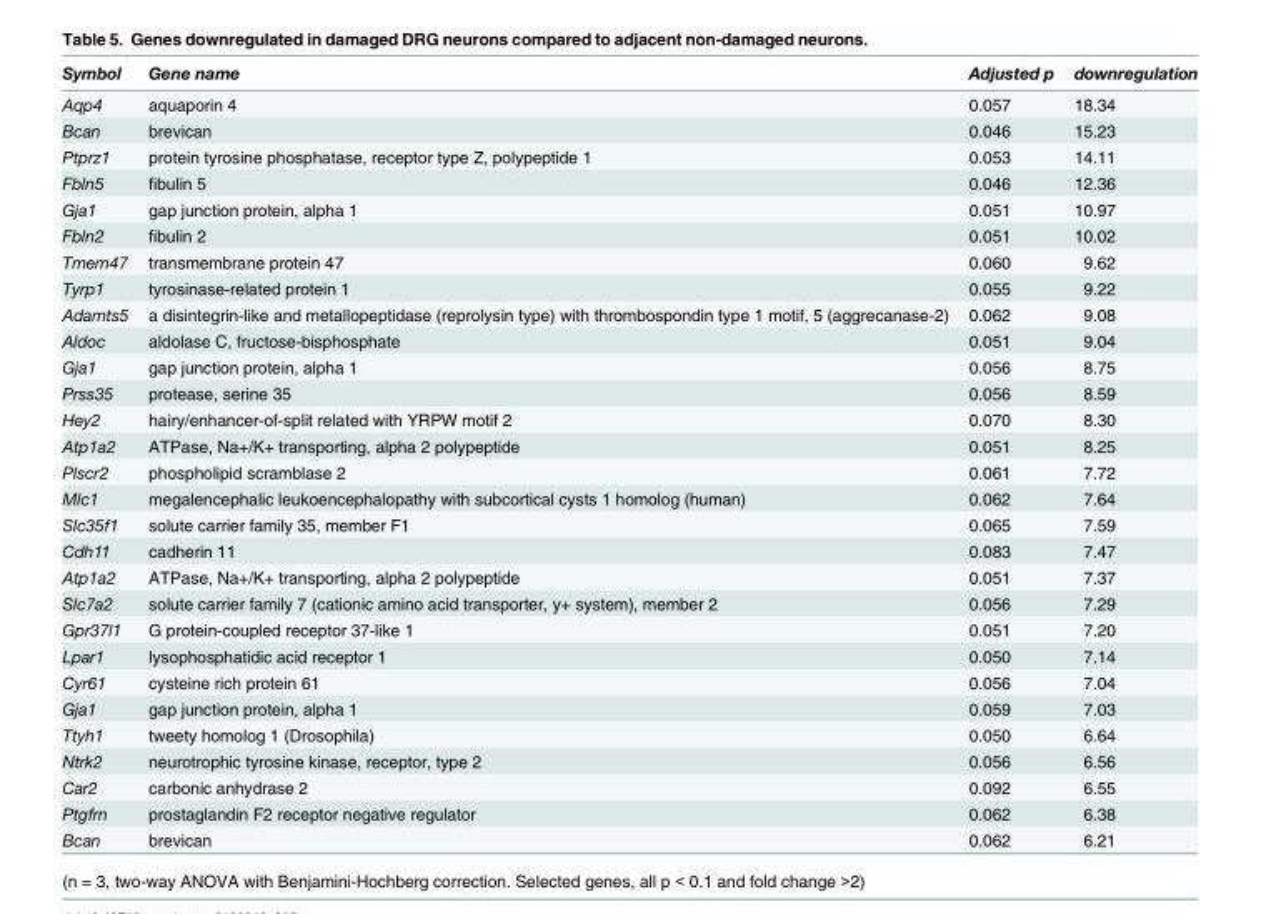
<table><thead><tr><td>Symbol</td><td>Gene name</td><td>Adjusted p</td><td>downregulation</td></tr></thead><tbody><tr><td>Aqp4</td><td>aquaporin 4</td><td>0.057</td><td>18.34</td></tr><tr><td>Bcan</td><td>brevican</td><td>0.046</td><td>15.23</td></tr><tr><td>Ptprz1</td><td>protein tyrosine phosphatase, receptor type Z, polypeptide 1</td><td>0.053</td><td>14.11</td></tr><tr><td>Fbln5</td><td>fibulin 5</td><td>0.046</td><td>12.36</td></tr><tr><td>Gja1</td><td>gap junction protein, alpha 1</td><td>0.051</td><td>10.97</td></tr><tr><td>Fbln2</td><td>fibulin 2</td><td>0.051</td><td>10.02</td></tr><tr><td>Tmem47</td><td>transmembrane protein 47</td><td>0.060</td><td>9.62</td></tr><tr><td>Tyrp1</td><td>tyrosinase-related protein 1</td><td>0.055</td><td>9.22</td></tr><tr><td>Adamts5</td><td>a disintegrin-like and metallopeptidase (reprolysin type) with thrombospondin type 1 motif, 5 (aggrecanase-2)</td><td>0.062</td><td>9.08</td></tr><tr><td>Aldoc</td><td>aldolase C, fructose-bisphosphate</td><td>0.051</td><td>9.04</td></tr><tr><td>Gja1</td><td>gap junction protein, alpha 1</td><td>0.056</td><td>8.75</td></tr><tr><td>Prss35</td><td>protease, serine 35</td><td>0.056</td><td>8.59</td></tr><tr><td>Hey2</td><td>hairy/enhancer-of-split related with YRPW motif 2</td><td>0.070</td><td>8.30</td></tr><tr><td>Atp1a2</td><td>ATPase, Na+/K+ transporting, alpha 2 polypeptide</td><td>0.051</td><td>8.25</td></tr><tr><td>Plscr2</td><td>phospholipid scramblase 2</td><td>0.061</td><td>7.72</td></tr><tr><td>Mlc1</td><td>megalencephalic leukoencephalopathy with subcortical cysts 1 homolog (human)</td><td>0.062</td><td>7.64</td></tr><tr><td>Slc35f1</td><td>solute carrier family 35, member F1</td><td>0.065</td><td>7.59</td></tr><tr><td>Cdh11</td><td>cadherin 11</td><td>0.083</td><td>7.47</td></tr><tr><td>Atp1a2</td><td>ATPase, Na+/K+ transporting, alpha 2 polypeptide</td><td>0.051</td><td>7.37</td></tr><tr><td>Slc7a2</td><td>solute carrier family 7 (cationic amino acid transporter, y+ system), member 2</td><td>0.056</td><td>7.29</td></tr><tr><td>Gpr37l1</td><td>G protein-coupled receptor 37-like 1</td><td>0.051</td><td>7.20</td></tr><tr><td>Lpar1</td><td>lysophosphatidic acid receptor 1</td><td>0.050</td><td>7.14</td></tr><tr><td>Cyr61</td><td>cysteine rich protein 61</td><td>0.056</td><td>7.04</td></tr><tr><td>Gja1</td><td>gap junction protein, alpha 1</td><td>0.059</td><td>7.03</td></tr><tr><td>Ttyh1</td><td>tweety homolog 1 (Drosophila)</td><td>0.050</td><td>6.64</td></tr><tr><td>Ntrk2</td><td>neurotrophic tyrosine kinase, receptor, type 2</td><td>0.056</td><td>6.56</td></tr><tr><td>Car2</td><td>carbonic anhydrase 2</td><td>0.092</td><td>6.55</td></tr><tr><td>Ptgfrn</td><td>prostaglandin F2 receptor negative regulator</td><td>0.062</td><td>6.38</td></tr><tr><td>Bcan</td><td>brevican</td><td>0.062</td><td>6.21</td></tr></tbody></table>